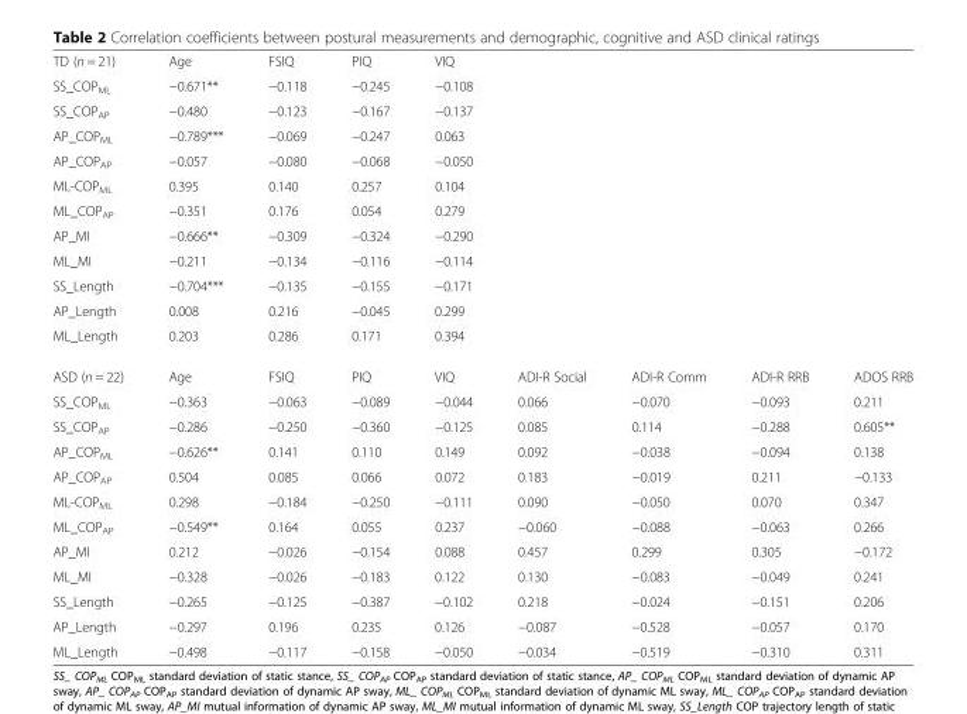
<table><tbody><tr><td>TD (n = 21)</td><td>Age</td><td>FSIQ</td><td>PIQ</td><td colspan="5">VIQ</td></tr><tr><td>SS_COP<sub>ML</sub></td><td>−0.671**</td><td>−0.118</td><td>−0.245</td><td colspan="5">−0.108</td></tr><tr><td>SS_COP<sub>AP</sub></td><td>−0.480</td><td>−0.123</td><td>−0.167</td><td colspan="5">−0.137</td></tr><tr><td>AP_COP<sub>ML</sub></td><td>−0.789***</td><td>−0.069</td><td>−0.247</td><td colspan="5">0.063</td></tr><tr><td>AP_COP<sub>AP</sub></td><td>−0.057</td><td>−0.080</td><td>−0.068</td><td colspan="5">−0.050</td></tr><tr><td>ML-COP<sub>ML</sub></td><td>0.395</td><td>0.140</td><td>0.257</td><td colspan="5">0.104</td></tr><tr><td>ML_COP<sub>AP</sub></td><td>−0.351</td><td>0.176</td><td>0.054</td><td colspan="5">0.279</td></tr><tr><td>AP_MI</td><td>−0.666**</td><td>−0.309</td><td>−0.324</td><td colspan="5">−0.290</td></tr><tr><td>ML_MI</td><td>−0.211</td><td>−0.134</td><td>−0.116</td><td colspan="5">−0.114</td></tr><tr><td>SS_Length</td><td>−0.704***</td><td>−0.135</td><td>−0.155</td><td colspan="5">−0.171</td></tr><tr><td>AP_Length</td><td>0.008</td><td>0.216</td><td>−0.045</td><td colspan="5">0.299</td></tr><tr><td>ML_Length</td><td>0.203</td><td>0.286</td><td>0.171</td><td colspan="5">0.394</td></tr><tr><td>ASD (n = 22)</td><td>Age</td><td>FSIQ</td><td>PIQ</td><td>VIQ</td><td>ADI-R Social</td><td>ADI-R Comm</td><td>ADI-R RRB</td><td>ADOS RRB</td></tr><tr><td>SS_COP<sub>ML</sub></td><td>−0.363</td><td>−0.063</td><td>−0.089</td><td>−0.044</td><td>0.066</td><td>−0.070</td><td>−0.093</td><td>0.211</td></tr><tr><td>SS_COP<sub>AP</sub></td><td>−0.286</td><td>−0.250</td><td>−0.360</td><td>−0.125</td><td>0.085</td><td>0.114</td><td>−0.288</td><td>0.605**</td></tr><tr><td>AP_COP<sub>ML</sub></td><td>−0.626**</td><td>0.141</td><td>0.110</td><td>0.149</td><td>0.092</td><td>−0.038</td><td>−0.094</td><td>0.138</td></tr><tr><td>AP_COP<sub>AP</sub></td><td>0.504</td><td>0.085</td><td>0.066</td><td>0.072</td><td>0.183</td><td>−0.019</td><td>0.211</td><td>−0.133</td></tr><tr><td>ML-COP<sub>ML</sub></td><td>0.298</td><td>−0.184</td><td>−0.250</td><td>−0.111</td><td>0.090</td><td>−0.050</td><td>0.070</td><td>0.347</td></tr><tr><td>ML_COP<sub>AP</sub></td><td>−0.549**</td><td>0.164</td><td>0.055</td><td>0.237</td><td>−0.060</td><td>−0.088</td><td>−0.063</td><td>0.266</td></tr><tr><td>AP_MI</td><td>0.212</td><td>−0.026</td><td>−0.154</td><td>0.088</td><td>0.457</td><td>0.299</td><td>0.305</td><td>−0.172</td></tr><tr><td>ML_MI</td><td>−0.328</td><td>−0.026</td><td>−0.183</td><td>0.122</td><td>0.130</td><td>−0.083</td><td>−0.049</td><td>0.241</td></tr><tr><td>SS_Length</td><td>−0.265</td><td>−0.125</td><td>−0.387</td><td>−0.102</td><td>0.218</td><td>−0.024</td><td>−0.151</td><td>0.206</td></tr><tr><td>AP_Length</td><td>−0.297</td><td>0.196</td><td>0.235</td><td>0.126</td><td>−0.087</td><td>−0.528</td><td>−0.057</td><td>0.170</td></tr><tr><td>ML_Length</td><td>−0.498</td><td>−0.117</td><td>−0.158</td><td>−0.050</td><td>−0.034</td><td>−0.519</td><td>−0.310</td><td>0.311</td></tr></tbody></table>